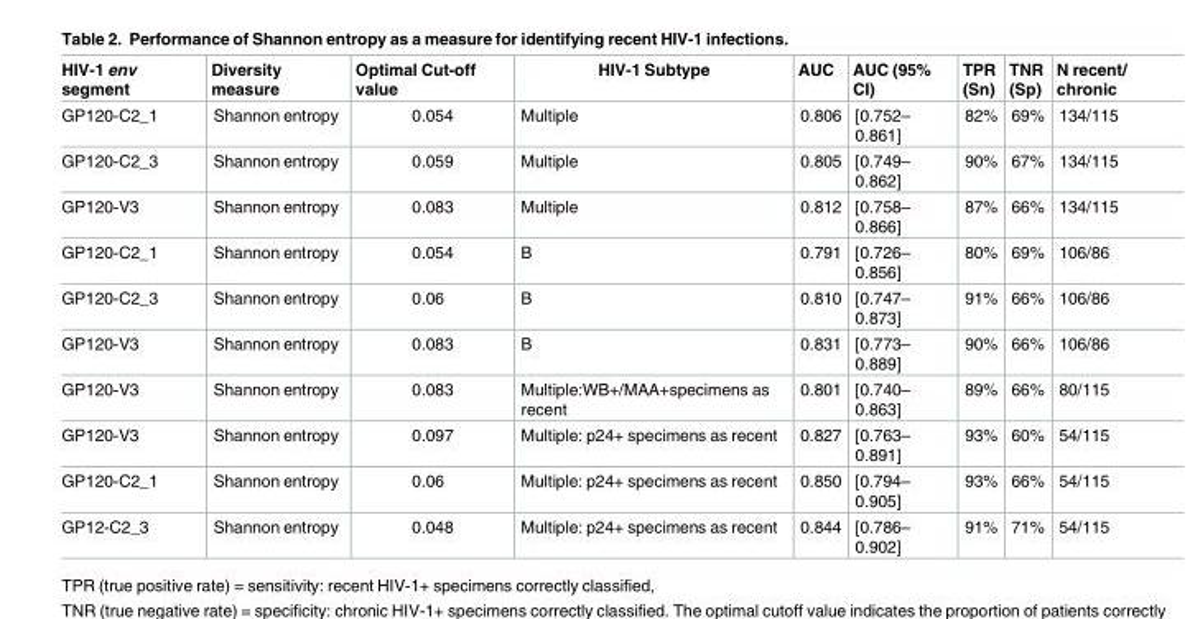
<table><thead><tr><td>HIV-1 env segment</td><td>Diversity measure</td><td>Optimal Cut-off value</td><td>HIV-1 Subtype</td><td>AUC</td><td>AUC (95% CI)</td><td>TPR (Sn)</td><td>TNR (Sp)</td><td>N recent/ chronic</td></tr></thead><tbody><tr><td>GP120-C2_1</td><td>Shannon entropy</td><td>0.054</td><td>Multiple</td><td>0.806</td><td>[0.752– 0.861]</td><td>82%</td><td>69%</td><td>134/115</td></tr><tr><td>GP120-C2_3</td><td>Shannon entropy</td><td>0.059</td><td>Multiple</td><td>0.805</td><td>[0.749– 0.862]</td><td>90%</td><td>67%</td><td>134/115</td></tr><tr><td>GP120-V3</td><td>Shannon entropy</td><td>0.083</td><td>Multiple</td><td>0.812</td><td>[0.758– 0.866]</td><td>87%</td><td>66%</td><td>134/115</td></tr><tr><td>GP120-C2_1</td><td>Shannon entropy</td><td>0.054</td><td>B</td><td>0.791</td><td>[0.726– 0.856]</td><td>80%</td><td>69%</td><td>106/86</td></tr><tr><td>GP120-C2_3</td><td>Shannon entropy</td><td>0.06</td><td>B</td><td>0.810</td><td>[0.747– 0.873]</td><td>91%</td><td>66%</td><td>106/86</td></tr><tr><td>GP120-V3</td><td>Shannon entropy</td><td>0.083</td><td>B</td><td>0.831</td><td>[0.773– 0.889]</td><td>90%</td><td>66%</td><td>106/86</td></tr><tr><td>GP120-V3</td><td>Shannon entropy</td><td>0.083</td><td>Multiple:WB+/MAA+specimens as recent</td><td>0.801</td><td>[0.740– 0.863]</td><td>89%</td><td>66%</td><td>80/115</td></tr><tr><td>GP120-V3</td><td>Shannon entropy</td><td>0.097</td><td>Multiple: p24+ specimens as recent</td><td>0.827</td><td>[0.763– 0.891]</td><td>93%</td><td>60%</td><td>54/115</td></tr><tr><td>GP120-C2_1</td><td>Shannon entropy</td><td>0.06</td><td>Multiple: p24+ specimens as recent</td><td>0.850</td><td>[0.794– 0.905]</td><td>93%</td><td>66%</td><td>54/115</td></tr><tr><td>GP12-C2_3</td><td>Shannon entropy</td><td>0.048</td><td>Multiple: p24+ specimens as recent</td><td>0.844</td><td>[0.786– 0.902]</td><td>91%</td><td>71%</td><td>54/115</td></tr></tbody></table>